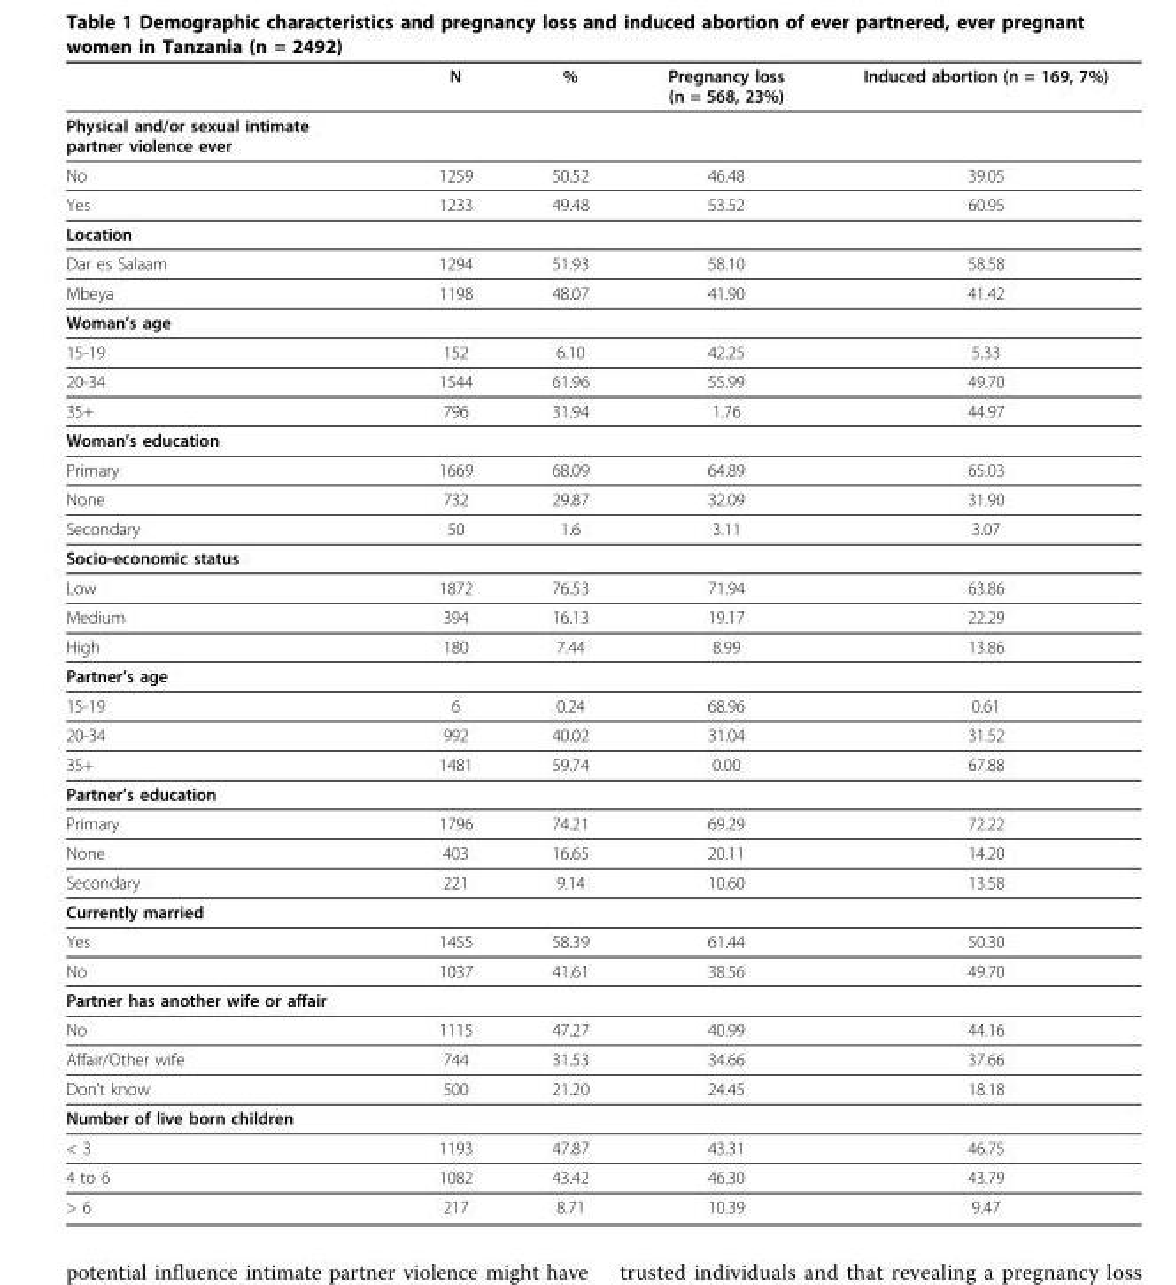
<table><thead><tr><td></td><td>N</td><td>%</td><td>Pregnancy loss (n = 568, 23%)</td><td>Induced abortion (n = 169, 7%)</td></tr></thead><tbody><tr><td colspan="5">Physical and/or sexual intimate partner violence ever</td></tr><tr><td>No</td><td>1259</td><td>50.52</td><td>46.48</td><td>39.05</td></tr><tr><td>Yes</td><td>1233</td><td>49.48</td><td>53.52</td><td>60.95</td></tr><tr><td colspan="5">Location</td></tr><tr><td>Dar es Salaam</td><td>1294</td><td>51.93</td><td>58.10</td><td>58.58</td></tr><tr><td>Mbeya</td><td>1198</td><td>48.07</td><td>41.90</td><td>41.42</td></tr><tr><td colspan="5">Woman’s age</td></tr><tr><td>15-19</td><td>152</td><td>6.10</td><td>42.25</td><td>5.33</td></tr><tr><td>20-34</td><td>1544</td><td>61.96</td><td>55.99</td><td>49.70</td></tr><tr><td>35+</td><td>796</td><td>31.94</td><td>1.76</td><td>44.97</td></tr><tr><td colspan="5">Woman’s education</td></tr><tr><td>Primary</td><td>1669</td><td>68.09</td><td>64.89</td><td>65.03</td></tr><tr><td>None</td><td>732</td><td>29.87</td><td>32.09</td><td>31.90</td></tr><tr><td>Secondary</td><td>50</td><td>1.6</td><td>3.11</td><td>3.07</td></tr><tr><td colspan="5">Socio-economic status</td></tr><tr><td>Low</td><td>1872</td><td>76.53</td><td>71.94</td><td>63.86</td></tr><tr><td>Medium</td><td>394</td><td>16.13</td><td>19.17</td><td>22.29</td></tr><tr><td>High</td><td>180</td><td>7.44</td><td>8.99</td><td>13.86</td></tr><tr><td colspan="5">Partner’s age</td></tr><tr><td>15-19</td><td>6</td><td>0.24</td><td>68.96</td><td>0.61</td></tr><tr><td>20-34</td><td>992</td><td>40.02</td><td>31.04</td><td>31.52</td></tr><tr><td>35+</td><td>1481</td><td>59.74</td><td>0.00</td><td>67.88</td></tr><tr><td colspan="5">Partner’s education</td></tr><tr><td>Primary</td><td>1796</td><td>74.21</td><td>69.29</td><td>72.22</td></tr><tr><td>None</td><td>403</td><td>16.65</td><td>20.11</td><td>14.20</td></tr><tr><td>Secondary</td><td>221</td><td>9.14</td><td>10.60</td><td>13.58</td></tr><tr><td colspan="5">Currently married</td></tr><tr><td>Yes</td><td>1455</td><td>58.39</td><td>61.44</td><td>50.30</td></tr><tr><td>No</td><td>1037</td><td>41.61</td><td>38.56</td><td>49.70</td></tr><tr><td colspan="5">Partner has another wife or affair</td></tr><tr><td>No</td><td>1115</td><td>47.27</td><td>40.99</td><td>44.16</td></tr><tr><td>Affair/Other wife</td><td>744</td><td>31.53</td><td>34.66</td><td>37.66</td></tr><tr><td>Don’t know</td><td>500</td><td>21.20</td><td>24.45</td><td>18.18</td></tr><tr><td colspan="5">Number of live born children</td></tr><tr><td>&lt; 3</td><td>1193</td><td>47.87</td><td>43.31</td><td>46.75</td></tr><tr><td>4 to 6</td><td>1082</td><td>43.42</td><td>46.30</td><td>43.79</td></tr><tr><td>&gt; 6</td><td>217</td><td>8.71</td><td>10.39</td><td>9.47</td></tr></tbody></table>